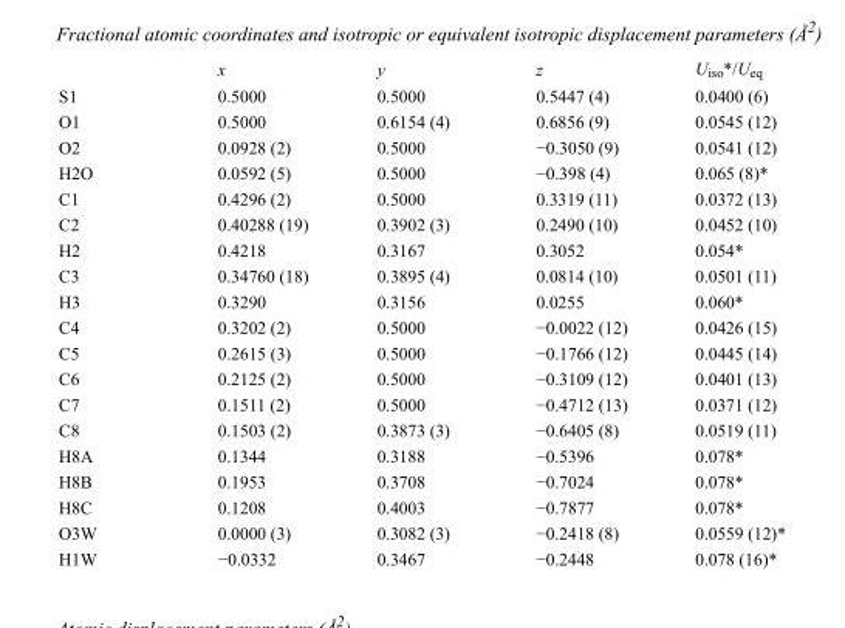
<table><thead><tr><td></td><td>x</td><td>y</td><td>z</td><td>U<sub>iso</sub>*/U<sub>eq</sub></td></tr></thead><tbody><tr><td>S1</td><td>0.5000</td><td>0.5000</td><td>0.5447 (4)</td><td>0.0400 (6)</td></tr><tr><td>O1</td><td>0.5000</td><td>0.6154 (4)</td><td>0.6856 (9)</td><td>0.0545 (12)</td></tr><tr><td>O2</td><td>0.0928 (2)</td><td>0.5000</td><td>−0.3050 (9)</td><td>0.0541 (12)</td></tr><tr><td>H2O</td><td>0.0592 (5)</td><td>0.5000</td><td>−0.398 (4)</td><td>0.065 (8)*</td></tr><tr><td>C1</td><td>0.4296 (2)</td><td>0.5000</td><td>0.3319 (11)</td><td>0.0372 (13)</td></tr><tr><td>C2</td><td>0.40288 (19)</td><td>0.3902 (3)</td><td>0.2490 (10)</td><td>0.0452 (10)</td></tr><tr><td>H2</td><td>0.4218</td><td>0.3167</td><td>0.3052</td><td>0.054*</td></tr><tr><td>C3</td><td>0.34760 (18)</td><td>0.3895 (4)</td><td>0.0814 (10)</td><td>0.0501 (11)</td></tr><tr><td>H3</td><td>0.3290</td><td>0.3156</td><td>0.0255</td><td>0.060*</td></tr><tr><td>C4</td><td>0.3202 (2)</td><td>0.5000</td><td>−0.0022 (12)</td><td>0.0426 (15)</td></tr><tr><td>C5</td><td>0.2615 (3)</td><td>0.5000</td><td>−0.1766 (12)</td><td>0.0445 (14)</td></tr><tr><td>C6</td><td>0.2125 (2)</td><td>0.5000</td><td>−0.3109 (12)</td><td>0.0401 (13)</td></tr><tr><td>C7</td><td>0.1511 (2)</td><td>0.5000</td><td>−0.4712 (13)</td><td>0.0371 (12)</td></tr><tr><td>C8</td><td>0.1503 (2)</td><td>0.3873 (3)</td><td>−0.6405 (8)</td><td>0.0519 (11)</td></tr><tr><td>H8A</td><td>0.1344</td><td>0.3188</td><td>−0.5396</td><td>0.078*</td></tr><tr><td>H8B</td><td>0.1953</td><td>0.3708</td><td>−0.7024</td><td>0.078*</td></tr><tr><td>H8C</td><td>0.1208</td><td>0.4003</td><td>−0.7877</td><td>0.078*</td></tr><tr><td>O3W</td><td>0.0000 (3)</td><td>0.3082 (3)</td><td>−0.2418 (8)</td><td>0.0559 (12)*</td></tr><tr><td>H1W</td><td>−0.0332</td><td>0.3467</td><td>−0.2448</td><td>0.078 (16)*</td></tr></tbody></table>